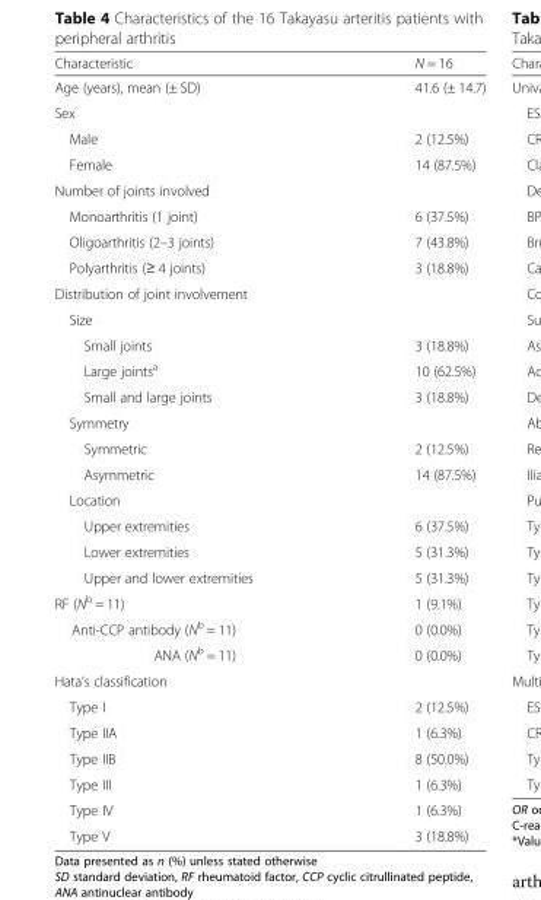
<table><thead><tr><td>Characteristic</td><td>N = 16</td></tr></thead><tbody><tr><td>Age (years), mean (± SD)</td><td>41.6 (± 14.7)</td></tr><tr><td colspan="2">Sex</td></tr><tr><td>Male</td><td>2 (12.5%)</td></tr><tr><td>Female</td><td>14 (87.5%)</td></tr><tr><td colspan="2">Number of joints involved</td></tr><tr><td>Monoarthritis (1 joint)</td><td>6 (37.5%)</td></tr><tr><td>Oligoarthritis (2–3 joints)</td><td>7 (43.8%)</td></tr><tr><td>Polyarthritis (≥ 4 joints)</td><td>3 (18.8%)</td></tr><tr><td colspan="2">Distribution of joint involvement</td></tr><tr><td colspan="2">Size</td></tr><tr><td>Small joints</td><td>3 (18.8%)</td></tr><tr><td>Large joints<sup>a</sup></td><td>10 (62.5%)</td></tr><tr><td>Small and large joints</td><td>3 (18.8%)</td></tr><tr><td colspan="2">Symmetry</td></tr><tr><td>Symmetric</td><td>2 (12.5%)</td></tr><tr><td>Asymmetric</td><td>14 (87.5%)</td></tr><tr><td colspan="2">Location</td></tr><tr><td>Upper extremities</td><td>6 (37.5%)</td></tr><tr><td>Lower extremities</td><td>5 (31.3%)</td></tr><tr><td>Upper and lower extremities</td><td>5 (31.3%)</td></tr><tr><td>RF (N<sup>b</sup> = 11)</td><td>1 (9.1%)</td></tr><tr><td>Anti-CCP antibody (N<sup>b</sup> = 11)</td><td>0 (0.0%)</td></tr><tr><td>ANA (N<sup>b</sup> = 11)</td><td>0 (0.0%)</td></tr><tr><td colspan="2">Hata’s classification</td></tr><tr><td>Type I</td><td>2 (12.5%)</td></tr><tr><td>Type IIA</td><td>1 (6.3%)</td></tr><tr><td>Type IIB</td><td>8 (50.0%)</td></tr><tr><td>Type III</td><td>1 (6.3%)</td></tr><tr><td>Type IV</td><td>1 (6.3%)</td></tr><tr><td>Type V</td><td>3 (18.8%)</td></tr></tbody></table>